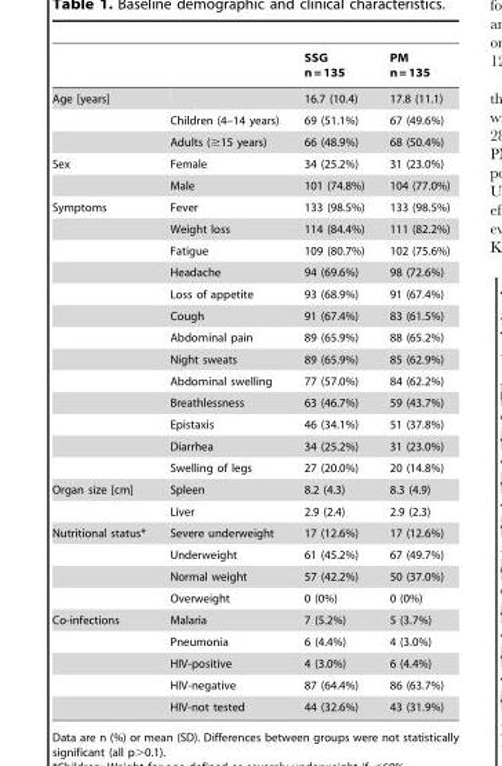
<table><thead><tr><td></td><td></td><td>SSG n = 135</td><td>PM n = 135</td></tr></thead><tbody><tr><td rowspan="3">Age [years]</td><td></td><td>16.7 (10.4)</td><td>17.8 (11.1)</td></tr><tr><td>Children (4–14 years)</td><td>69 (51.1%)</td><td>67 (49.6%)</td></tr><tr><td>Adults (≥15 years)</td><td>66 (48.9%)</td><td>68 (50.4%)</td></tr><tr><td rowspan="2">Sex</td><td>Female</td><td>34 (25.2%)</td><td>31 (23.0%)</td></tr><tr><td>Male</td><td>101 (74.8%)</td><td>104 (77.0%)</td></tr><tr><td rowspan="13">Symptoms</td><td>Fever</td><td>133 (98.5%)</td><td>133 (98.5%)</td></tr><tr><td>Weight loss</td><td>114 (84.4%)</td><td>111 (82.2%)</td></tr><tr><td>Fatigue</td><td>109 (80.7%)</td><td>102 (75.6%)</td></tr><tr><td>Headache</td><td>94 (69.6%)</td><td>98 (72.6%)</td></tr><tr><td>Loss of appetite</td><td>93 (68.9%)</td><td>91 (67.4%)</td></tr><tr><td>Cough</td><td>91 (67.4%)</td><td>83 (61.5%)</td></tr><tr><td>Abdominal pain</td><td>89 (65.9%)</td><td>88 (65.2%)</td></tr><tr><td>Night sweats</td><td>89 (65.9%)</td><td>85 (62.9%)</td></tr><tr><td>Abdominal swelling</td><td>77 (57.0%)</td><td>84 (62.2%)</td></tr><tr><td>Breathlessness</td><td>63 (46.7%)</td><td>59 (43.7%)</td></tr><tr><td>Epistaxis</td><td>46 (34.1%)</td><td>51 (37.8%)</td></tr><tr><td>Diarrhea</td><td>34 (25.2%)</td><td>31 (23.0%)</td></tr><tr><td>Swelling of legs</td><td>27 (20.0%)</td><td>20 (14.8%)</td></tr><tr><td rowspan="2">Organ size [cm]</td><td>Spleen</td><td>8.2 (4.3)</td><td>8.3 (4.9)</td></tr><tr><td>Liver</td><td>2.9 (2.4)</td><td>2.9 (2.3)</td></tr><tr><td rowspan="4">Nutritional status*</td><td>Severe underweight</td><td>17 (12.6%)</td><td>17 (12.6%)</td></tr><tr><td>Underweight</td><td>61 (45.2%)</td><td>67 (49.7%)</td></tr><tr><td>Normal weight</td><td>57 (42.2%)</td><td>50 (37.0%)</td></tr><tr><td>Overweight</td><td>0 (0%)</td><td>0 (0%)</td></tr><tr><td rowspan="5">Co-infections</td><td>Malaria</td><td>7 (5.2%)</td><td>5 (3.7%)</td></tr><tr><td>Pneumonia</td><td>6 (4.4%)</td><td>4 (3.0%)</td></tr><tr><td>HIV-positive</td><td>4 (3.0%)</td><td>6 (4.4%)</td></tr><tr><td>HIV-negative</td><td>87 (64.4%)</td><td>86 (63.7%)</td></tr><tr><td>HIV-not tested</td><td>44 (32.6%)</td><td>43 (31.9%)</td></tr></tbody></table>